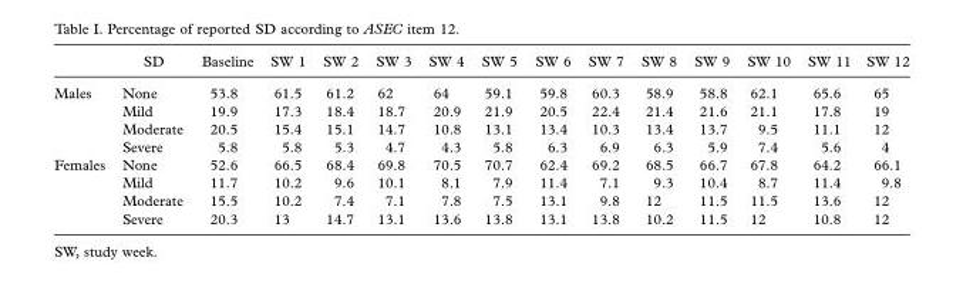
<table><thead><tr><td></td><td>SD</td><td>Baseline</td><td>SW 1</td><td>SW 2</td><td>SW 3</td><td>SW 4</td><td>SW 5</td><td>SW 6</td><td>SW 7</td><td>SW 8</td><td>SW 9</td><td>SW 10</td><td>SW 11</td><td>SW 12</td></tr></thead><tbody><tr><td rowspan="4">Males</td><td>None</td><td>53.8</td><td>61.5</td><td>61.2</td><td>62</td><td>64</td><td>59.1</td><td>59.8</td><td>60.3</td><td>58.9</td><td>58.8</td><td>62.1</td><td>65.6</td><td>65</td></tr><tr><td>Mild</td><td>19.9</td><td>17.3</td><td>18.4</td><td>18.7</td><td>20.9</td><td>21.9</td><td>20.5</td><td>22.4</td><td>21.4</td><td>21.6</td><td>21.1</td><td>17.8</td><td>19</td></tr><tr><td>Moderate</td><td>20.5</td><td>15.4</td><td>15.1</td><td>14.7</td><td>10.8</td><td>13.1</td><td>13.4</td><td>10.3</td><td>13.4</td><td>13.7</td><td>9.5</td><td>11.1</td><td>12</td></tr><tr><td>Severe</td><td>5.8</td><td>5.8</td><td>5.3</td><td>4.7</td><td>4.3</td><td>5.8</td><td>6.3</td><td>6.9</td><td>6.3</td><td>5.9</td><td>7.4</td><td>5.6</td><td>4</td></tr><tr><td rowspan="4">Females</td><td>None</td><td>52.6</td><td>66.5</td><td>68.4</td><td>69.8</td><td>70.5</td><td>70.7</td><td>62.4</td><td>69.2</td><td>68.5</td><td>66.7</td><td>67.8</td><td>64.2</td><td>66.1</td></tr><tr><td>Mild</td><td>11.7</td><td>10.2</td><td>9.6</td><td>10.1</td><td>8.1</td><td>7.9</td><td>11.4</td><td>7.1</td><td>9.3</td><td>10.4</td><td>8.7</td><td>11.4</td><td>9.8</td></tr><tr><td>Moderate</td><td>15.5</td><td>10.2</td><td>7.4</td><td>7.1</td><td>7.8</td><td>7.5</td><td>13.1</td><td>9.8</td><td>12</td><td>11.5</td><td>11.5</td><td>13.6</td><td>12</td></tr><tr><td>Severe</td><td>20.3</td><td>13</td><td>14.7</td><td>13.1</td><td>13.6</td><td>13.8</td><td>13.1</td><td>13.8</td><td>10.2</td><td>11.5</td><td>12</td><td>10.8</td><td>12</td></tr></tbody></table>